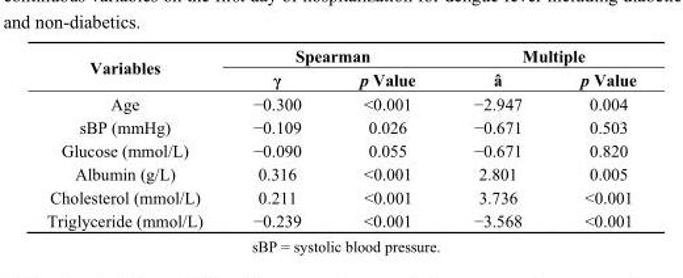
<table><thead><tr><td rowspan="2">Variables</td><td colspan="2">Spearman</td><td colspan="2">Multiple</td></tr><tr><td>γ</td><td>p Value</td><td>â</td><td>p Value</td></tr></thead><tbody><tr><td>Age</td><td>−0.300</td><td>&lt;0.001</td><td>−2.947</td><td>0.004</td></tr><tr><td>sBP (mmHg)</td><td>−0.109</td><td>0.026</td><td>−0.671</td><td>0.503</td></tr><tr><td>Glucose (mmol/L)</td><td>−0.090</td><td>0.055</td><td>−0.671</td><td>0.820</td></tr><tr><td>Albumin (g/L)</td><td>0.316</td><td>&lt;0.001</td><td>2.801</td><td>0.005</td></tr><tr><td>Cholesterol (mmol/L)</td><td>0.211</td><td>&lt;0.001</td><td>3.736</td><td>&lt;0.001</td></tr><tr><td>Triglyceride (mmol/L)</td><td>−0.239</td><td>&lt;0.001</td><td>−3.568</td><td>&lt;0.001</td></tr></tbody></table>